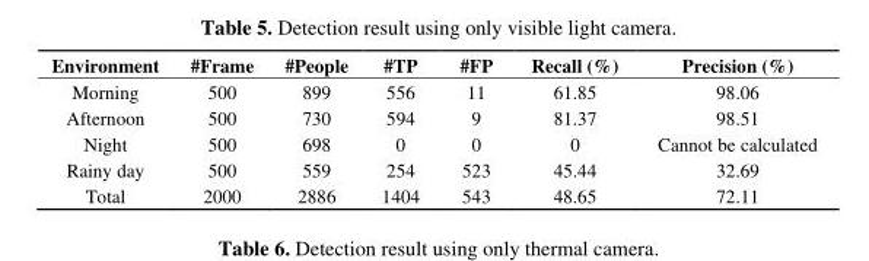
<table><thead><tr><td>Environment</td><td>#Frame</td><td>#People</td><td>#TP</td><td>#FP</td><td>Recall (%)</td><td>Precision (%)</td></tr></thead><tbody><tr><td>Morning</td><td>500</td><td>899</td><td>556</td><td>11</td><td>61.85</td><td>98.06</td></tr><tr><td>Afternoon</td><td>500</td><td>730</td><td>594</td><td>9</td><td>81.37</td><td>98.51</td></tr><tr><td>Night</td><td>500</td><td>698</td><td>0</td><td>0</td><td>0</td><td>Cannot be calculated</td></tr><tr><td>Rainy day</td><td>500</td><td>559</td><td>254</td><td>523</td><td>45.44</td><td>32.69</td></tr><tr><td>Total</td><td>2000</td><td>2886</td><td>1404</td><td>543</td><td>48.65</td><td>72.11</td></tr></tbody></table>